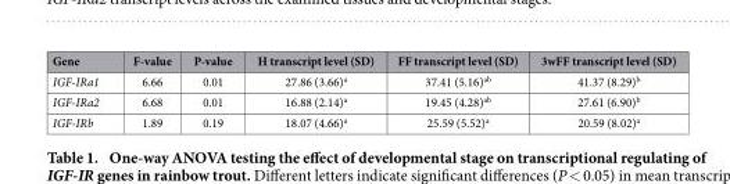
<table><thead><tr><td>Gene</td><td>F-value</td><td>P-value</td><td>H transcript level (SD)</td><td>FF transcript level (SD)</td><td>3wFF transcript level (SD)</td></tr></thead><tbody><tr><td>IGF-IRa1</td><td>6.66</td><td>0.01</td><td>27.86 (3.66)<sup>a</sup></td><td>37.41 (5.16)<sup>ab</sup></td><td>41.37 (8.29)<sup>b</sup></td></tr><tr><td>IGF-IRa2</td><td>6.68</td><td>0.01</td><td>16.88 (2.14)<sup>a</sup></td><td>19.45 (4.28)<sup>ab</sup></td><td>27.61 (6.90)<sup>b</sup></td></tr><tr><td>IGF-IRb</td><td>1.89</td><td>0.19</td><td>18.07 (4.66)<sup>a</sup></td><td>25.59 (5.52)<sup>a</sup></td><td>20.59 (8.02)<sup>a</sup></td></tr></tbody></table>